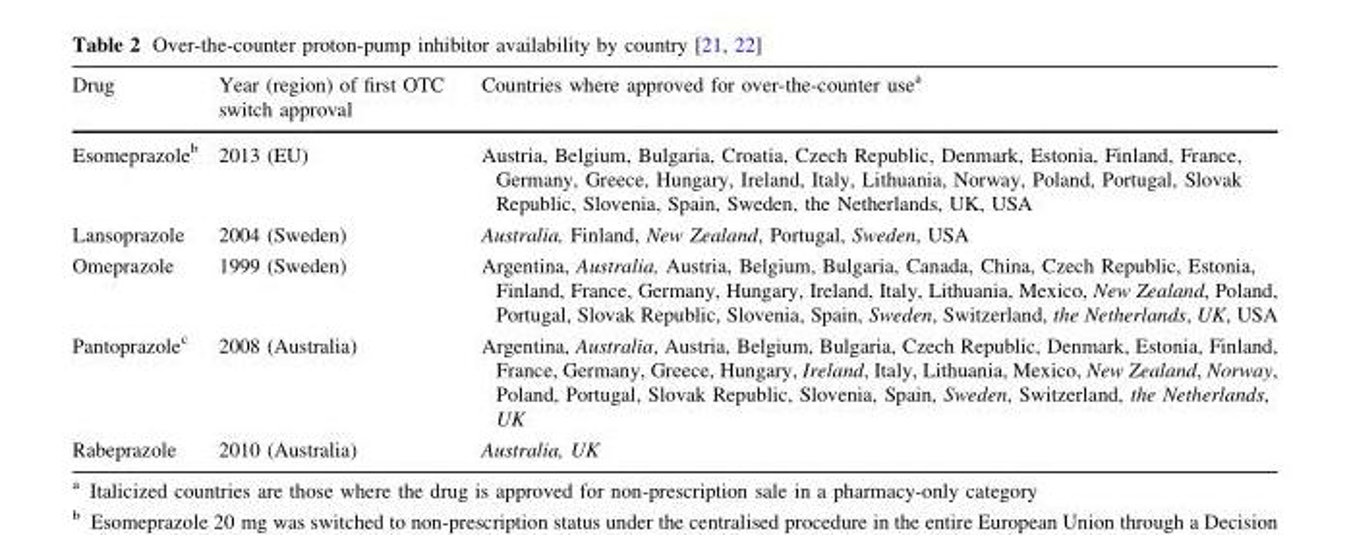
<table><thead><tr><td>Drug</td><td>Year (region) of first OTC switch approval</td><td>Countries where approved for over-the-counter use<sup>a</sup></td></tr></thead><tbody><tr><td>Esomeprazole<sup>b</sup></td><td>2013 (EU)</td><td>Austria, Belgium, Bulgaria, Croatia, Czech Republic, Denmark, Estonia, Finland, France, Germany, Greece, Hungary, Ireland, Italy, Lithuania, Norway, Poland, Portugal, Slovak Republic, Slovenia, Spain, Sweden, the Netherlands, UK, USA</td></tr><tr><td>Lansoprazole</td><td>2004 (Sweden)</td><td>Australia, Finland, New Zealand, Portugal, Sweden, USA</td></tr><tr><td>Omeprazole</td><td>1999 (Sweden)</td><td>Argentina, Australia, Austria, Belgium, Bulgaria, Canada, China, Czech Republic, Estonia, Finland, France, Germany, Hungary, Ireland, Italy, Lithuania, Mexico, New Zealand, Poland, Portugal, Slovak Republic, Slovenia, Spain, Sweden, Switzerland, the Netherlands, UK, USA</td></tr><tr><td>Pantoprazole<sup>c</sup></td><td>2008 (Australia)</td><td>Argentina, Australia, Austria, Belgium, Bulgaria, Czech Republic, Denmark, Estonia, Finland, France, Germany, Greece, Hungary, Ireland, Italy, Lithuania, Mexico, New Zealand, Norway, Poland, Portugal, Slovak Republic, Slovenia, Spain, Sweden, Switzerland, the Netherlands, UK</td></tr><tr><td>Rabeprazole</td><td>2010 (Australia)</td><td>Australia, UK</td></tr></tbody></table>